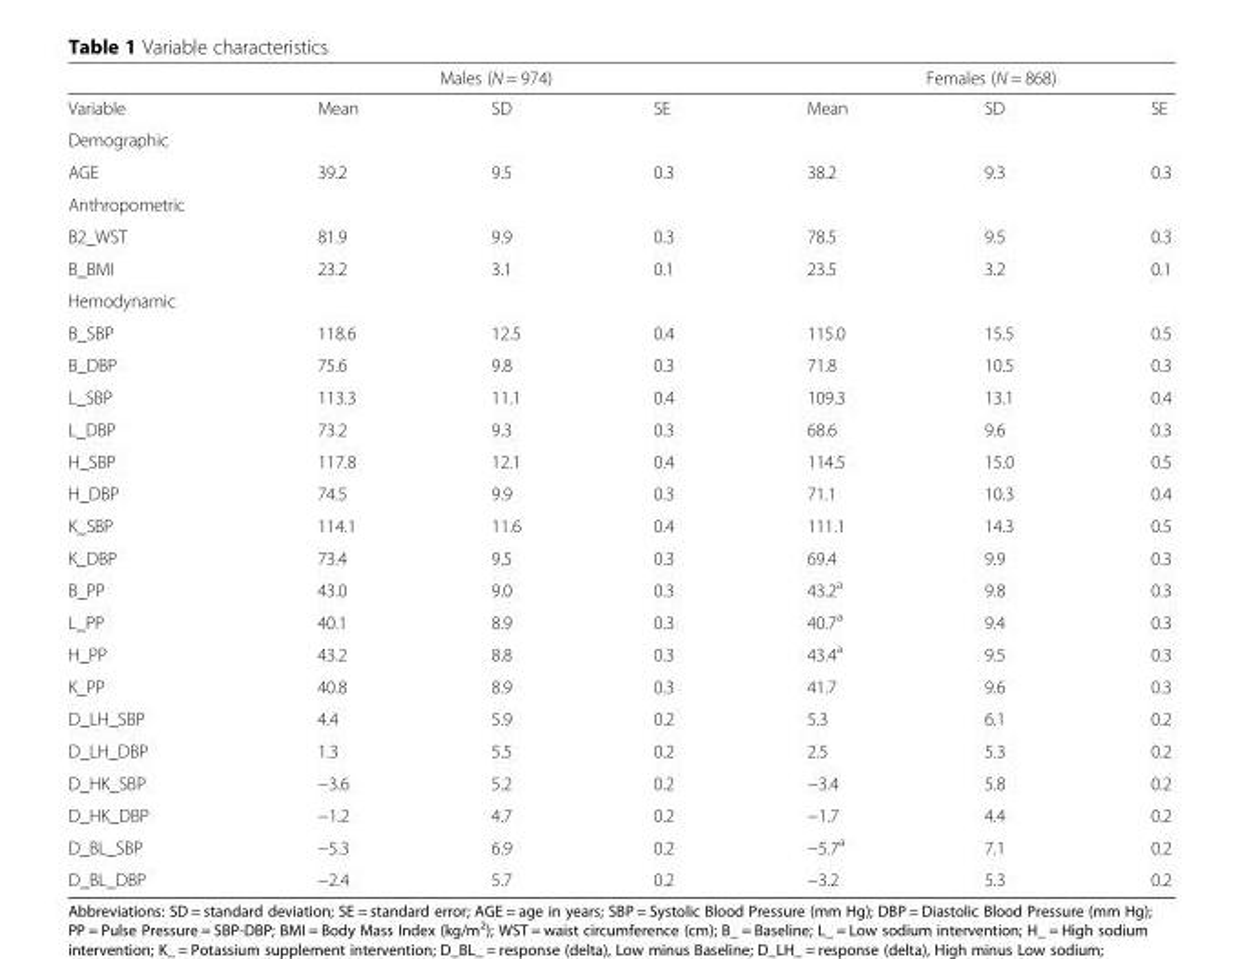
<table><thead><tr><td rowspan="2">Variable</td><td colspan="3">Males (N = 974)</td><td colspan="3">Females (N = 868)</td></tr><tr><td>Mean</td><td>SD</td><td>SE</td><td>Mean</td><td>SD</td><td>SE</td></tr></thead><tbody><tr><td colspan="7">Demographic</td></tr><tr><td>AGE</td><td>39.2</td><td>9.5</td><td>0.3</td><td>38.2</td><td>9.3</td><td>0.3</td></tr><tr><td colspan="7">Anthropometric</td></tr><tr><td>B2_WST</td><td>81.9</td><td>9.9</td><td>0.3</td><td>78.5</td><td>9.5</td><td>0.3</td></tr><tr><td>B_BMI</td><td>23.2</td><td>3.1</td><td>0.1</td><td>23.5</td><td>3.2</td><td>0.1</td></tr><tr><td colspan="7">Hemodynamic</td></tr><tr><td>B_SBP</td><td>118.6</td><td>12.5</td><td>0.4</td><td>115.0</td><td>15.5</td><td>0.5</td></tr><tr><td>B_DBP</td><td>75.6</td><td>9.8</td><td>0.3</td><td>71.8</td><td>10.5</td><td>0.3</td></tr><tr><td>L_SBP</td><td>113.3</td><td>11.1</td><td>0.4</td><td>109.3</td><td>13.1</td><td>0.4</td></tr><tr><td>L_DBP</td><td>73.2</td><td>9.3</td><td>0.3</td><td>68.6</td><td>9.6</td><td>0.3</td></tr><tr><td>H_SBP</td><td>117.8</td><td>12.1</td><td>0.4</td><td>114.5</td><td>15.0</td><td>0.5</td></tr><tr><td>H_DBP</td><td>74.5</td><td>9.9</td><td>0.3</td><td>71.1</td><td>10.3</td><td>0.4</td></tr><tr><td>K_SBP</td><td>114.1</td><td>11.6</td><td>0.4</td><td>111.1</td><td>14.3</td><td>0.5</td></tr><tr><td>K_DBP</td><td>73.4</td><td>9.5</td><td>0.3</td><td>69.4</td><td>9.9</td><td>0.3</td></tr><tr><td>B_PP</td><td>43.0</td><td>9.0</td><td>0.3</td><td>43.2<sup>a</sup></td><td>9.8</td><td>0.3</td></tr><tr><td>L_PP</td><td>40.1</td><td>8.9</td><td>0.3</td><td>40.7<sup>a</sup></td><td>9.4</td><td>0.3</td></tr><tr><td>H_PP</td><td>43.2</td><td>8.8</td><td>0.3</td><td>43.4<sup>a</sup></td><td>9.5</td><td>0.3</td></tr><tr><td>K_PP</td><td>40.8</td><td>8.9</td><td>0.3</td><td>41.7</td><td>9.6</td><td>0.3</td></tr><tr><td>D_LH_SBP</td><td>4.4</td><td>5.9</td><td>0.2</td><td>5.3</td><td>6.1</td><td>0.2</td></tr><tr><td>D_LH_DBP</td><td>1.3</td><td>5.5</td><td>0.2</td><td>2.5</td><td>5.3</td><td>0.2</td></tr><tr><td>D_HK_SBP</td><td>−3.6</td><td>5.2</td><td>0.2</td><td>−3.4</td><td>5.8</td><td>0.2</td></tr><tr><td>D_HK_DBP</td><td>−1.2</td><td>4.7</td><td>0.2</td><td>−1.7</td><td>4.4</td><td>0.2</td></tr><tr><td>D_BL_SBP</td><td>−5.3</td><td>6.9</td><td>0.2</td><td>−5.7<sup>a</sup></td><td>7.1</td><td>0.2</td></tr><tr><td>D_BL_DBP</td><td>−2.4</td><td>5.7</td><td>0.2</td><td>−3.2</td><td>5.3</td><td>0.2</td></tr></tbody></table>